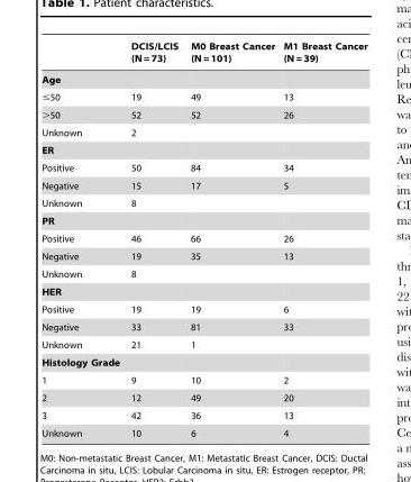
<table><thead><tr><td></td><td>DCIS/LCIS (N = 73)</td><td>M0 Breast Cancer (N = 101)</td><td>M1 Breast Cancer (N = 39)</td></tr></thead><tbody><tr><td colspan="4">Age</td></tr><tr><td>≤50</td><td>19</td><td>49</td><td>13</td></tr><tr><td>&gt;50</td><td>52</td><td>52</td><td>26</td></tr><tr><td>Unknown</td><td>2</td><td></td><td></td></tr><tr><td colspan="4">ER</td></tr><tr><td>Positive</td><td>50</td><td>84</td><td>34</td></tr><tr><td>Negative</td><td>15</td><td>17</td><td>5</td></tr><tr><td>Unknown</td><td>8</td><td></td><td></td></tr><tr><td colspan="4">PR</td></tr><tr><td>Positive</td><td>46</td><td>66</td><td>26</td></tr><tr><td>Negative</td><td>19</td><td>35</td><td>13</td></tr><tr><td>Unknown</td><td>8</td><td></td><td></td></tr><tr><td colspan="4">HER</td></tr><tr><td>Positive</td><td>19</td><td>19</td><td>6</td></tr><tr><td>Negative</td><td>33</td><td>81</td><td>33</td></tr><tr><td>Unknown</td><td>21</td><td>1</td><td></td></tr><tr><td colspan="4">Histology Grade</td></tr><tr><td>1</td><td>9</td><td>10</td><td>2</td></tr><tr><td>2</td><td>12</td><td>49</td><td>20</td></tr><tr><td>3</td><td>42</td><td>36</td><td>13</td></tr><tr><td>Unknown</td><td>10</td><td>6</td><td>4</td></tr></tbody></table>